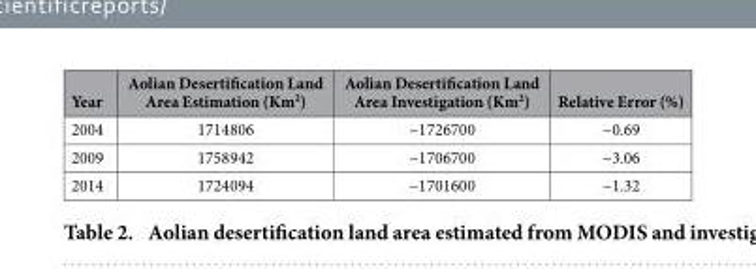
<table><thead><tr><td>Year</td><td>Aolian Desertification Land Area Estimation (Km<sup>2</sup>)</td><td>Aolian Desertification Land Area Investigation (Km<sup>2</sup>)</td><td>Relative Error (%)</td></tr></thead><tbody><tr><td>2004</td><td>1714806</td><td>~1726700</td><td>~0.69</td></tr><tr><td>2009</td><td>1758942</td><td>~1706700</td><td>~3.06</td></tr><tr><td>2014</td><td>1724094</td><td>~1701600</td><td>~1.32</td></tr></tbody></table>